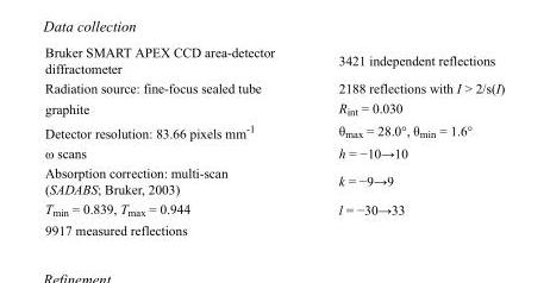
<table><tbody><tr><td>Bruker SMART APEX CCD area-detector diffractometer</td><td>3421 independent reflections</td></tr><tr><td>Radiation source: fine-focus sealed tube</td><td>2188 reflections with I &gt; 2/s(I)</td></tr><tr><td>graphite</td><td>R<sub>int</sub> = 0.030</td></tr><tr><td>Detector resolution: 83.66 pixels mm<sup>-1</sup></td><td>θ<sub>max</sub> = 28.0°, θ<sub>min</sub> = 1.6°</td></tr><tr><td>ω scans</td><td>h = −10→10</td></tr><tr><td>Absorption correction: multi-scan (SADABS; Bruker, 2003)</td><td>k = −9→9</td></tr><tr><td>T<sub>min</sub> = 0.839, T<sub>max</sub> = 0.944</td><td>l = −30→33</td></tr><tr><td>9917 measured reflections</td><td></td></tr></tbody></table>